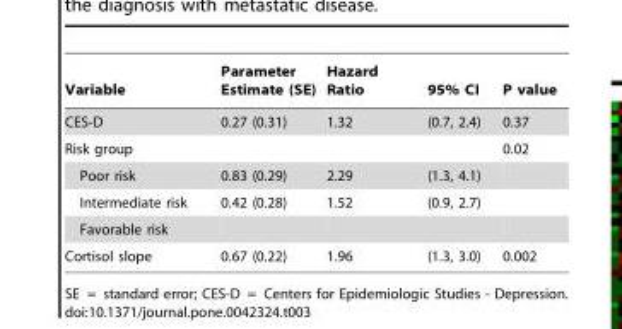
<table><thead><tr><td>Variable</td><td>Parameter Estimate (SE)</td><td>Hazard Ratio</td><td>95% CI</td><td>P value</td></tr></thead><tbody><tr><td>CES-D</td><td>0.27 (0.31)</td><td>1.32</td><td>(0.7, 2.4)</td><td>0.37</td></tr><tr><td>Risk group</td><td></td><td></td><td></td><td>0.02</td></tr><tr><td>Poor risk</td><td>0.83 (0.29)</td><td>2.29</td><td>(1.3, 4.1)</td><td></td></tr><tr><td>Intermediate risk</td><td>0.42 (0.28)</td><td>1.52</td><td>(0.9, 2.7)</td><td></td></tr><tr><td colspan="5">Favorable risk</td></tr><tr><td>Cortisol slope</td><td>0.67 (0.22)</td><td>1.96</td><td>(1.3, 3.0)</td><td>0.002</td></tr></tbody></table>